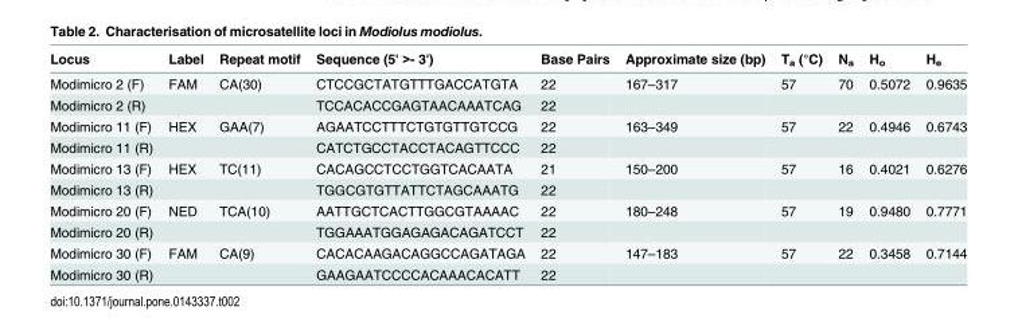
<table><thead><tr><td>Locus</td><td>Label</td><td>Repeat motif</td><td>Sequence (5&#x27; &gt;- 3&#x27;)</td><td>Base Pairs</td><td>Approximate size (bp)</td><td>T<sub>a</sub> (°C)</td><td>N<sub>a</sub></td><td>H<sub>o</sub></td><td>H<sub>e</sub></td></tr></thead><tbody><tr><td>Modimicro 2 (F)</td><td>FAM</td><td>CA(30)</td><td>CTCCGCTATGTTTGACCATGTA</td><td>22</td><td>167–317</td><td>57</td><td>70</td><td>0.5072</td><td>0.9635</td></tr><tr><td>Modimicro 2 (R)</td><td></td><td></td><td>TCCACACCGAGTAACAAATCAG</td><td>22</td><td></td><td></td><td></td><td></td><td></td></tr><tr><td>Modimicro 11 (F)</td><td>HEX</td><td>GAA(7)</td><td>AGAATCCTTTCTGTGTTGTCCG</td><td>22</td><td>163–349</td><td>57</td><td>22</td><td>0.4946</td><td>0.6743</td></tr><tr><td>Modimicro 11 (R)</td><td></td><td></td><td>CATCTGCCTACCTACAGTTCCC</td><td>22</td><td></td><td></td><td></td><td></td><td></td></tr><tr><td>Modimicro 13 (F)</td><td>HEX</td><td>TC(11)</td><td>CACAGCCTCCTGGTCACAATA</td><td>21</td><td>150–200</td><td>57</td><td>16</td><td>0.4021</td><td>0.6276</td></tr><tr><td>Modimicro 13 (R)</td><td></td><td></td><td>TGGCGTGTTATTCTAGCAAATG</td><td>22</td><td></td><td></td><td></td><td></td><td></td></tr><tr><td>Modimicro 20 (F)</td><td>NED</td><td>TCA(10)</td><td>AATTGCTCACTTGGCGTAAAAC</td><td>22</td><td>180–248</td><td>57</td><td>19</td><td>0.9480</td><td>0.7771</td></tr><tr><td>Modimicro 20 (R)</td><td></td><td></td><td>TGGAAATGGAGAGACAGATCCT</td><td>22</td><td></td><td></td><td></td><td></td><td></td></tr><tr><td>Modimicro 30 (F)</td><td>FAM</td><td>CA(9)</td><td>CACACAAGACAGGCCAGATAGA</td><td>22</td><td>147–183</td><td>57</td><td>22</td><td>0.3458</td><td>0.7144</td></tr><tr><td>Modimicro 30 (R)</td><td></td><td></td><td>GAAGAATCCCCACAAACACATT</td><td>22</td><td></td><td></td><td></td><td></td><td></td></tr></tbody></table>